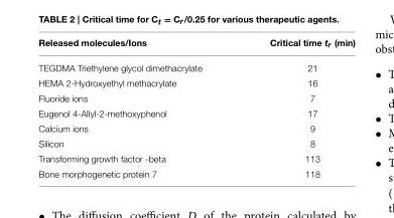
<table><thead><tr><td>Released molecules/Ions</td><td>Critical time tr (min)</td></tr></thead><tbody><tr><td>TEGDMA Triethylene glycol dimethacrylate</td><td>21</td></tr><tr><td>HEMA 2-Hydroxyethyl methacrylate</td><td>16</td></tr><tr><td>Fluoride ions</td><td>7</td></tr><tr><td>Eugenol 4-Allyl-2-methoxyphenol</td><td>17</td></tr><tr><td>Calcium ions</td><td>9</td></tr><tr><td>Silicon</td><td>8</td></tr><tr><td>Transforming growth factor -beta</td><td>113</td></tr><tr><td>Bone morphogenetic protein 7</td><td>118</td></tr></tbody></table>